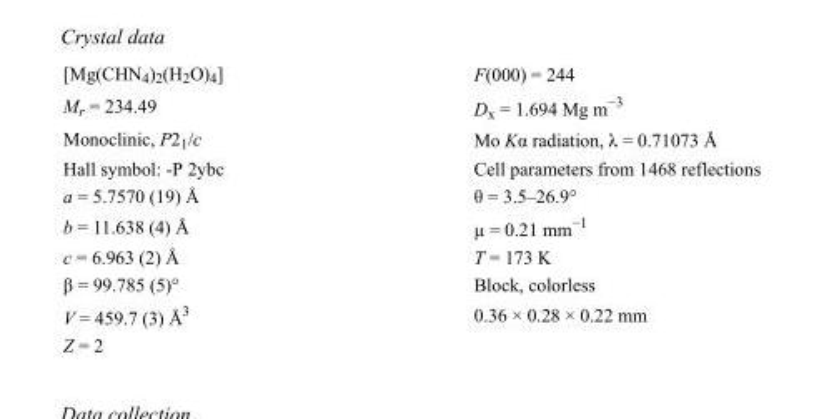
<table><tbody><tr><td>[Mg(CHN<sub>4</sub>)<sub>2</sub>(H<sub>2</sub>O)<sub>4</sub>]</td><td>F(000) = 244</td></tr><tr><td>M<sub>r</sub> = 234.49</td><td>D<sub>x</sub> = 1.694 Mg m<sup>−3</sup></td></tr><tr><td>Monoclinic, P2<sub>1</sub>/c</td><td>Mo Kα radiation, λ = 0.71073 Å</td></tr><tr><td>Hall symbol: -P 2ybc</td><td>Cell parameters from 1468 reflections</td></tr><tr><td>a = 5.7570 (19) Å</td><td>θ = 3.5–26.9°</td></tr><tr><td>b = 11.638 (4) Å</td><td>µ = 0.21 mm<sup>−1</sup></td></tr><tr><td>c = 6.963 (2) Å</td><td>T = 173 K</td></tr><tr><td>β = 99.785 (5)°</td><td>Block, colorless</td></tr><tr><td>V = 459.7 (3) Å<sup>3</sup></td><td>0.36 × 0.28 × 0.22 mm</td></tr><tr><td>Z = 2</td><td></td></tr></tbody></table>